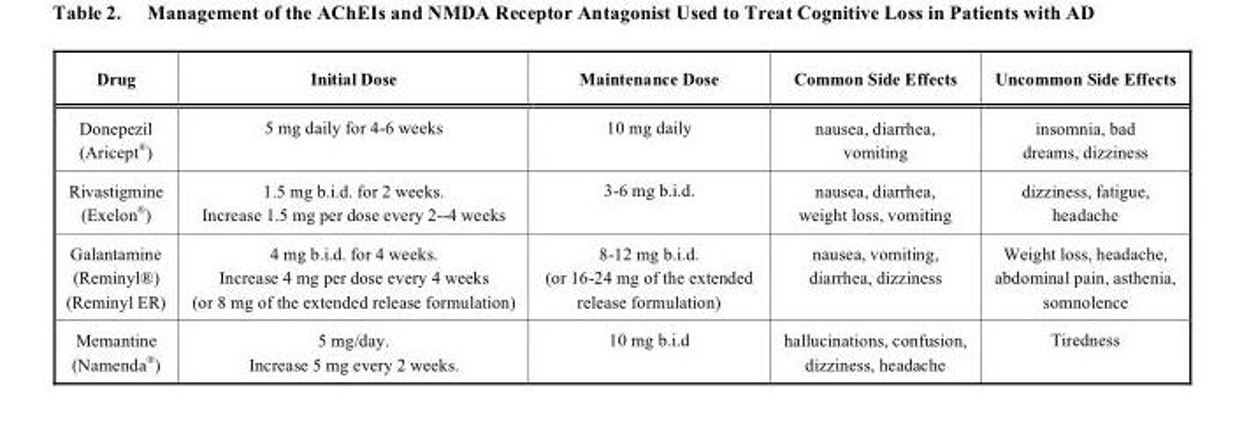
<table><thead><tr><td>Drug</td><td>Initial Dose</td><td>Maintenance Dose</td><td>Common Side Effects</td><td>Uncommon Side Effects</td></tr></thead><tbody><tr><td>Donepezil (Aricept<sup>®</sup>)</td><td>5 mg daily for 4-6 weeks</td><td>10 mg daily</td><td>nausea, diarrhea, vomiting</td><td>insomnia, bad dreams, dizziness</td></tr><tr><td>Rivastigmine (Exelon<sup>®</sup>)</td><td>1.5 mg b.i.d. for 2 weeks. Increase 1.5 mg per dose every 2--4 weeks</td><td>3-6 mg b.i.d.</td><td>nausea, diarrhea, weight loss, vomiting</td><td>dizziness, fatigue, headache</td></tr><tr><td>Galantamine (Reminyl®) (Reminyl ER)</td><td>4 mg b.i.d. for 4 weeks. Increase 4 mg per dose every 4 weeks (or 8 mg of the extended release formulation)</td><td>8-12 mg b.i.d. (or 16-24 mg of the extended release formulation)</td><td>nausea, vomiting, diarrhea, dizziness</td><td>Weight loss, headache, abdominal pain, asthenia, somnolence</td></tr><tr><td>Memantine (Namenda<sup>®</sup>)</td><td>5 mg/day. Increase 5 mg every 2 weeks.</td><td>10 mg b.i.d</td><td>hallucinations, confusion, dizziness, headache</td><td>Tiredness</td></tr></tbody></table>